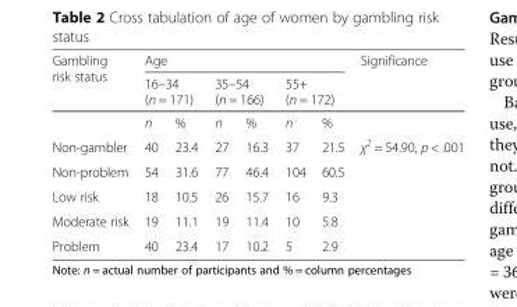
<table><thead><tr><td rowspan="3">Gambling risk status</td><td colspan="6">Age</td><td rowspan="3">Significance</td></tr><tr><td colspan="2">16–34 (n = 171)</td><td colspan="2">35–54 (n = 166)</td><td colspan="2">55+ (n = 172)</td></tr><tr><td>n</td><td>%</td><td>n</td><td>%</td><td>n</td><td>%</td></tr></thead><tbody><tr><td>Non-gambler</td><td>40</td><td>23.4</td><td>27</td><td>16.3</td><td>37</td><td>21.5</td><td rowspan="5">χ<sup>2</sup> = 54.90, p &lt; .001</td></tr><tr><td>Non-problem</td><td>54</td><td>31.6</td><td>77</td><td>46.4</td><td>104</td><td>60.5</td></tr><tr><td>Low risk</td><td>18</td><td>10.5</td><td>26</td><td>15.7</td><td>16</td><td>9.3</td></tr><tr><td>Moderate risk</td><td>19</td><td>11.1</td><td>19</td><td>11.4</td><td>10</td><td>5.8</td></tr><tr><td>Problem</td><td>40</td><td>23.4</td><td>17</td><td>10.2</td><td>5</td><td>2.9</td></tr></tbody></table>